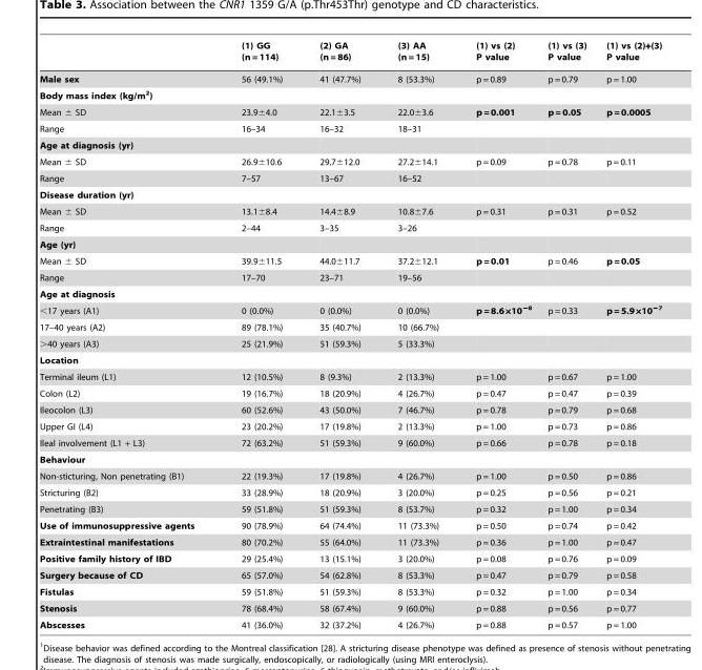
<table><thead><tr><td></td><td>(1) GG (n = 114)</td><td>(2) GA (n = 86)</td><td>(3) AA (n = 15)</td><td>(1) vs (2) P value</td><td>(1) vs (3) P value</td><td>(1) vs (2)+(3) P value</td></tr></thead><tbody><tr><td>Male sex</td><td>56 (49.1%)</td><td>41 (47.7%)</td><td>8 (53.3%)</td><td>p = 0.89</td><td>p = 0.79</td><td>p = 1.00</td></tr><tr><td colspan="7">Body mass index (kg/m<sup>2</sup>)</td></tr><tr><td>Mean ± SD</td><td>23.9±4.0</td><td>22.1±3.5</td><td>22.0±3.6</td><td>p = 0.001</td><td>p = 0.05</td><td>p = 0.0005</td></tr><tr><td>Range</td><td>16–34</td><td>16–32</td><td>18–31</td><td></td><td></td><td></td></tr><tr><td colspan="7">Age at diagnosis (yr)</td></tr><tr><td>Mean ± SD</td><td>26.9±10.6</td><td>29.7±12.0</td><td>27.2±14.1</td><td>p = 0.09</td><td>p = 0.78</td><td>p = 0.11</td></tr><tr><td>Range</td><td>7–57</td><td>13–67</td><td>16–52</td><td></td><td></td><td></td></tr><tr><td colspan="7">Disease duration (yr)</td></tr><tr><td>Mean ± SD</td><td>13.1±8.4</td><td>14.4±8.9</td><td>10.8±7.6</td><td>p = 0.31</td><td>p = 0.31</td><td>p = 0.52</td></tr><tr><td>Range</td><td>2–44</td><td>3–35</td><td>3–26</td><td></td><td></td><td></td></tr><tr><td colspan="7">Age (yr)</td></tr><tr><td>Mean ± SD</td><td>39.9±11.5</td><td>44.0±11.7</td><td>37.2±12.1</td><td>p = 0.01</td><td>p = 0.46</td><td>p = 0.05</td></tr><tr><td>Range</td><td>17–70</td><td>23–71</td><td>19–56</td><td></td><td></td><td></td></tr><tr><td colspan="7">Age at diagnosis</td></tr><tr><td>&lt;17 years (A1)</td><td>0 (0.0%)</td><td>0 (0.0%)</td><td>0 (0.0%)</td><td>p = 8.6×10<sup>−8</sup></td><td>p = 0.33</td><td>p = 5.9×10<sup>−7</sup></td></tr><tr><td>17–40 years (A2)</td><td>89 (78.1%)</td><td>35 (40.7%)</td><td>10 (66.7%)</td><td></td><td></td><td></td></tr><tr><td>&gt;40 years (A3)</td><td>25 (21.9%)</td><td>51 (59.3%)</td><td>5 (33.3%)</td><td></td><td></td><td></td></tr><tr><td colspan="7">Location</td></tr><tr><td>Terminal ileum (L1)</td><td>12 (10.5%)</td><td>8 (9.3%)</td><td>2 (13.3%)</td><td>p = 1.00</td><td>p = 0.67</td><td>p = 1.00</td></tr><tr><td>Colon (L2)</td><td>19 (16.7%)</td><td>18 (20.9%)</td><td>4 (26.7%)</td><td>p = 0.47</td><td>p = 0.47</td><td>p = 0.39</td></tr><tr><td>Ileocolon (L3)</td><td>60 (52.6%)</td><td>43 (50.0%)</td><td>7 (46.7%)</td><td>p = 0.78</td><td>p = 0.79</td><td>p = 0.68</td></tr><tr><td>Upper GI (L4)</td><td>23 (20.2%)</td><td>17 (19.8%)</td><td>2 (13.3%)</td><td>p = 1.00</td><td>p = 0.73</td><td>p = 0.86</td></tr><tr><td>Ileal involvement (L1 + L3)</td><td>72 (63.2%)</td><td>51 (59.3%)</td><td>9 (60.0%)</td><td>p = 0.66</td><td>p = 0.78</td><td>p = 0.18</td></tr><tr><td colspan="7">Behaviour</td></tr><tr><td>Non-sticturing, Non penetrating (B1)</td><td>22 (19.3%)</td><td>17 (19.8%)</td><td>4 (26.7%)</td><td>p = 1.00</td><td>p = 0.50</td><td>p = 0.86</td></tr><tr><td>Stricturing (B2)</td><td>33 (28.9%)</td><td>18 (20.9%)</td><td>3 (20.0%)</td><td>p = 0.25</td><td>p = 0.56</td><td>p = 0.21</td></tr><tr><td>Penetrating (B3)</td><td>59 (51.8%)</td><td>51 (59.3%)</td><td>8 (53.7%)</td><td>p = 0.32</td><td>p = 1.00</td><td>p = 0.34</td></tr><tr><td>Use of immunosuppressive agents</td><td>90 (78.9%)</td><td>64 (74.4%)</td><td>11 (73.3%)</td><td>p = 0.50</td><td>p = 0.74</td><td>p = 0.42</td></tr><tr><td>Extraintestinal manifestations</td><td>80 (70.2%)</td><td>55 (64.0%)</td><td>11 (73.3%)</td><td>p = 0.36</td><td>p = 1.00</td><td>p = 0.47</td></tr><tr><td>Positive family history of IBD</td><td>29 (25.4%)</td><td>13 (15.1%)</td><td>3 (20.0%)</td><td>p = 0.08</td><td>p = 0.76</td><td>p = 0.09</td></tr><tr><td>Surgery because of CD</td><td>65 (57.0%)</td><td>54 (62.8%)</td><td>8 (53.3%)</td><td>p = 0.47</td><td>p = 0.79</td><td>p = 0.58</td></tr><tr><td>Fistulas</td><td>59 (51.8%)</td><td>51 (59.3%)</td><td>8 (53.3%)</td><td>p = 0.32</td><td>p = 1.00</td><td>p = 0.34</td></tr><tr><td>Stenosis</td><td>78 (68.4%)</td><td>58 (67.4%)</td><td>9 (60.0%)</td><td>p = 0.88</td><td>p = 0.56</td><td>p = 0.77</td></tr><tr><td>Abscesses</td><td>41 (36.0%)</td><td>32 (37.2%)</td><td>4 (26.7%)</td><td>p = 0.88</td><td>p = 0.57</td><td>p = 1.00</td></tr></tbody></table>